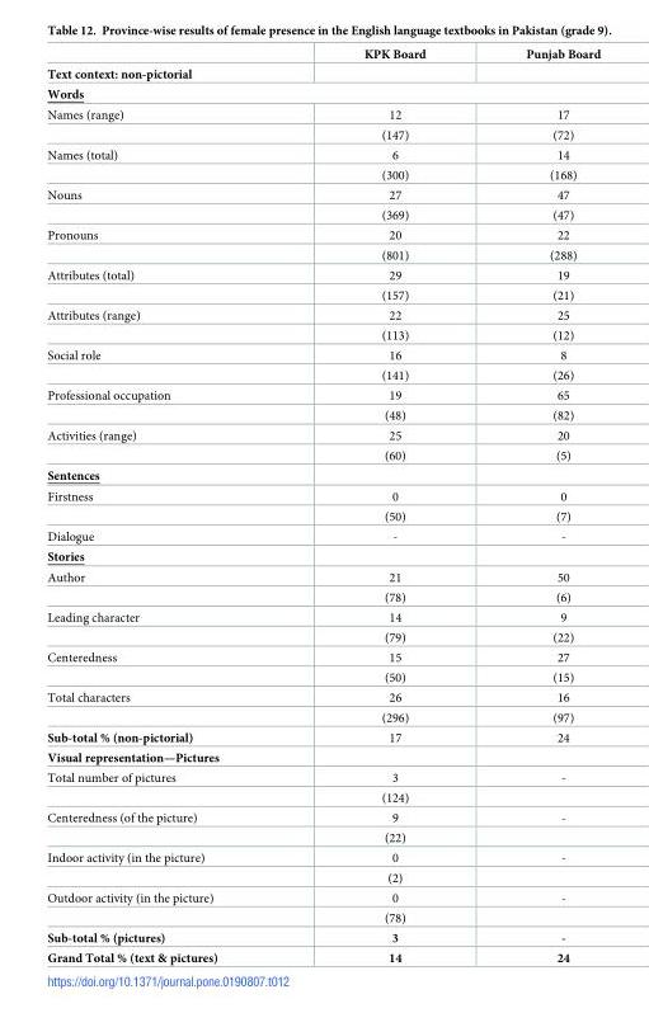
<table><thead><tr><td></td><td>KPK Board</td><td>Punjab Board</td></tr></thead><tbody><tr><td colspan="3">Text context: non-pictorial</td></tr><tr><td colspan="3">Words</td></tr><tr><td rowspan="2">Names (range)</td><td>12</td><td>17</td></tr><tr><td>(147)</td><td>(72)</td></tr><tr><td rowspan="2">Names (total)</td><td>6</td><td>14</td></tr><tr><td>(300)</td><td>(168)</td></tr><tr><td rowspan="2">Nouns</td><td>27</td><td>47</td></tr><tr><td>(369)</td><td>(47)</td></tr><tr><td rowspan="2">Pronouns</td><td>20</td><td>22</td></tr><tr><td>(801)</td><td>(288)</td></tr><tr><td rowspan="2">Attributes (total)</td><td>29</td><td>19</td></tr><tr><td>(157)</td><td>(21)</td></tr><tr><td rowspan="2">Attributes (range)</td><td>22</td><td>25</td></tr><tr><td>(113)</td><td>(12)</td></tr><tr><td rowspan="2">Social role</td><td>16</td><td>8</td></tr><tr><td>(141)</td><td>(26)</td></tr><tr><td rowspan="2">Professional occupation</td><td>19</td><td>65</td></tr><tr><td>(48)</td><td>(82)</td></tr><tr><td rowspan="2">Activities (range)</td><td>25</td><td>20</td></tr><tr><td>(60)</td><td>(5)</td></tr><tr><td colspan="3">Sentences</td></tr><tr><td rowspan="2">Firstness</td><td>0</td><td>0</td></tr><tr><td>(50)</td><td>(7)</td></tr><tr><td>Dialogue</td><td>-</td><td>-</td></tr><tr><td colspan="3">Stories</td></tr><tr><td rowspan="2">Author</td><td>21</td><td>50</td></tr><tr><td>(78)</td><td>(6)</td></tr><tr><td rowspan="2">Leading character</td><td>14</td><td>9</td></tr><tr><td>(79)</td><td>(22)</td></tr><tr><td rowspan="2">Centeredness</td><td>15</td><td>27</td></tr><tr><td>(50)</td><td>(15)</td></tr><tr><td rowspan="2">Total characters</td><td>26</td><td>16</td></tr><tr><td>(296)</td><td>(97)</td></tr><tr><td>Sub-total % (non-pictorial)</td><td>17</td><td>24</td></tr><tr><td colspan="3">Visual representation—Pictures</td></tr><tr><td rowspan="2">Total number of pictures</td><td>3</td><td>-</td></tr><tr><td>(124)</td><td></td></tr><tr><td rowspan="2">Centeredness (of the picture)</td><td>9</td><td>-</td></tr><tr><td>(22)</td><td></td></tr><tr><td rowspan="2">Indoor activity (in the picture)</td><td>0</td><td>-</td></tr><tr><td>(2)</td><td></td></tr><tr><td rowspan="2">Outdoor activity (in the picture)</td><td>0</td><td>-</td></tr><tr><td>(78)</td><td></td></tr><tr><td>Sub-total % (pictures)</td><td>3</td><td>-</td></tr><tr><td>Grand Total % (text &amp; pictures)</td><td>14</td><td>24</td></tr></tbody></table>